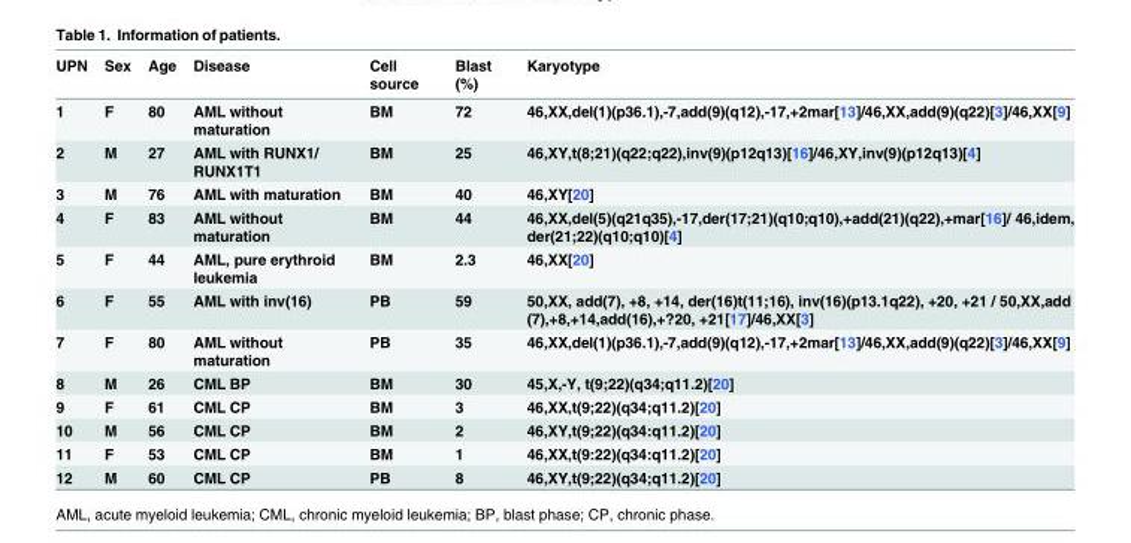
<table><thead><tr><td>UPN</td><td>Sex</td><td>Age</td><td>Disease</td><td>Cell source</td><td>Blast (%)</td><td>Karyotype</td></tr></thead><tbody><tr><td>1</td><td>F</td><td>80</td><td>AML without maturation</td><td>BM</td><td>72</td><td>46,XX,del(1)(p36.1),-7,add(9)(q12),-17,+2mar[13]/46,XX,add(9)(q22)[3]/46,XX[9]</td></tr><tr><td>2</td><td>M</td><td>27</td><td>AML with RUNX1/ RUNX1T1</td><td>BM</td><td>25</td><td>46,XY,t(8;21)(q22;q22),inv(9)(p12q13)[16]/46,XY,inv(9)(p12q13)[4]</td></tr><tr><td>3</td><td>M</td><td>76</td><td>AML with maturation</td><td>BM</td><td>40</td><td>46,XY[20]</td></tr><tr><td>4</td><td>F</td><td>83</td><td>AML without maturation</td><td>BM</td><td>44</td><td>46,XX,del(5)(q21q35),-17,der(17;21)(q10;q10),+add(21)(q22),+mar[16]/ 46,idem, der(21;22)(q10;q10)[4]</td></tr><tr><td>5</td><td>F</td><td>44</td><td>AML, pure erythroid leukemia</td><td>BM</td><td>2.3</td><td>46,XX[20]</td></tr><tr><td>6</td><td>F</td><td>55</td><td>AML with inv(16)</td><td>PB</td><td>59</td><td>50,XX, add(7), +8, +14, der(16)t(11;16), inv(16)(p13.1q22), +20, +21 / 50,XX,add (7),+8,+14,add(16),+?20, +21[17]/46,XX[3]</td></tr><tr><td>7</td><td>F</td><td>80</td><td>AML without maturation</td><td>PB</td><td>35</td><td>46,XX,del(1)(p36.1),-7,add(9)(q12),-17,+2mar[13]/46,XX,add(9)(q22)[3]/46,XX[9]</td></tr><tr><td>8</td><td>M</td><td>26</td><td>CML BP</td><td>BM</td><td>30</td><td>45,X,-Y, t(9;22)(q34;q11.2)[20]</td></tr><tr><td>9</td><td>F</td><td>61</td><td>CML CP</td><td>BM</td><td>3</td><td>46,XX,t(9;22)(q34;q11.2)[20]</td></tr><tr><td>10</td><td>M</td><td>56</td><td>CML CP</td><td>BM</td><td>2</td><td>46,XY,t(9;22)(q34:q11.2)[20]</td></tr><tr><td>11</td><td>F</td><td>53</td><td>CML CP</td><td>BM</td><td>1</td><td>46,XX,t(9:22)(q34:q11.2)[20]</td></tr><tr><td>12</td><td>M</td><td>60</td><td>CML CP</td><td>PB</td><td>8</td><td>46,XY,t(9;22)(q34;q11.2)[20]</td></tr></tbody></table>